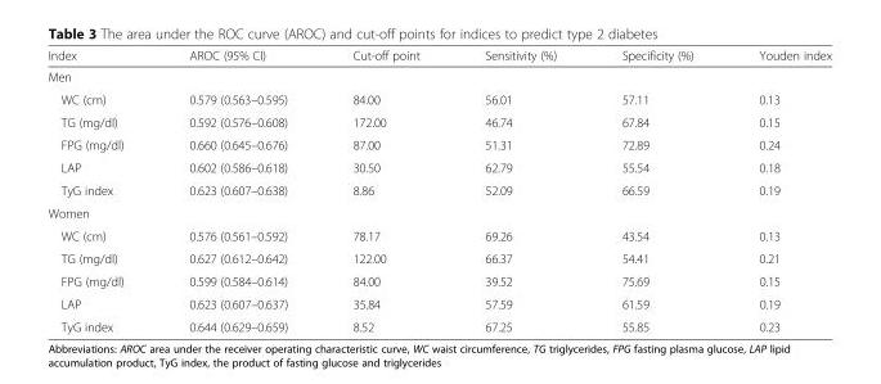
<table><thead><tr><td>Index</td><td>AROC (95% CI)</td><td>Cut-off point</td><td>Sensitivity (%)</td><td>Specificity (%)</td><td>Youden index</td></tr></thead><tbody><tr><td colspan="6">Men</td></tr><tr><td>WC (cm)</td><td>0.579 (0.563–0.595)</td><td>84.00</td><td>56.01</td><td>57.11</td><td>0.13</td></tr><tr><td>TG (mg/dl)</td><td>0.592 (0.576–0.608)</td><td>172.00</td><td>46.74</td><td>67.84</td><td>0.15</td></tr><tr><td>FPG (mg/dl)</td><td>0.660 (0.645–0.676)</td><td>87.00</td><td>51.31</td><td>72.89</td><td>0.24</td></tr><tr><td>LAP</td><td>0.602 (0.586–0.618)</td><td>30.50</td><td>62.79</td><td>55.54</td><td>0.18</td></tr><tr><td>TyG index</td><td>0.623 (0.607–0.638)</td><td>8.86</td><td>52.09</td><td>66.59</td><td>0.19</td></tr><tr><td colspan="6">Women</td></tr><tr><td>WC (cm)</td><td>0.576 (0.561–0.592)</td><td>78.17</td><td>69.26</td><td>43.54</td><td>0.13</td></tr><tr><td>TG (mg/dl)</td><td>0.627 (0.612–0.642)</td><td>122.00</td><td>66.37</td><td>54.41</td><td>0.21</td></tr><tr><td>FPG (mg/dl)</td><td>0.599 (0.584–0.614)</td><td>84.00</td><td>39.52</td><td>75.69</td><td>0.15</td></tr><tr><td>LAP</td><td>0.623 (0.607–0.637)</td><td>35.84</td><td>57.59</td><td>61.59</td><td>0.19</td></tr><tr><td>TyG index</td><td>0.644 (0.629–0.659)</td><td>8.52</td><td>67.25</td><td>55.85</td><td>0.23</td></tr></tbody></table>